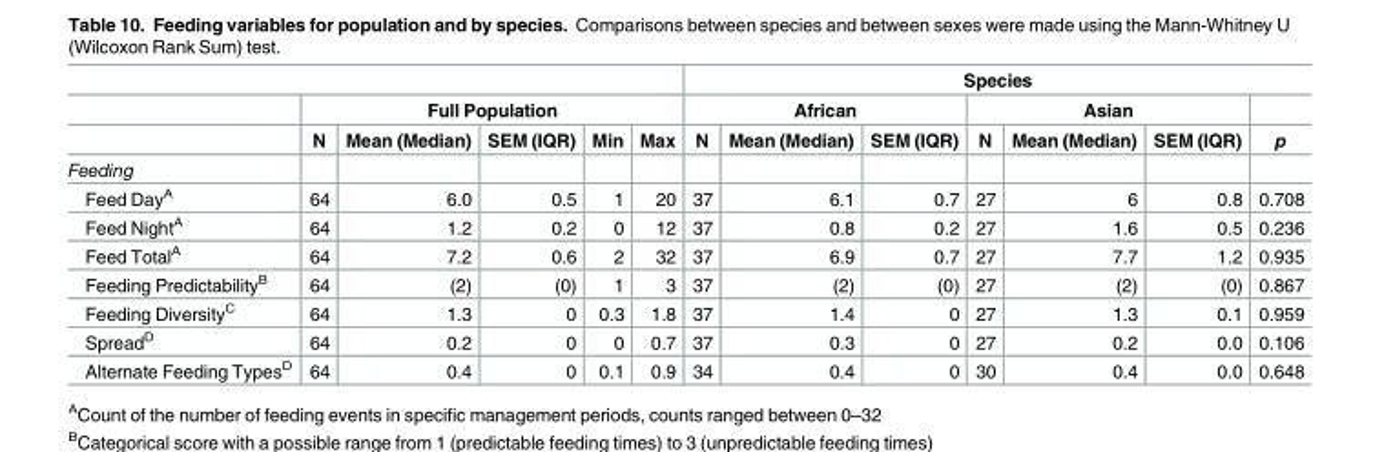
<table><thead><tr><td rowspan="3"></td><td></td><td></td><td></td><td></td><td></td><td colspan="7">Species</td></tr><tr><td colspan="5">Full Population</td><td colspan="3">African</td><td colspan="3">Asian</td><td rowspan="2">p</td></tr><tr><td>N</td><td>Mean (Median)</td><td>SEM (IQR)</td><td>Min</td><td>Max</td><td>N</td><td>Mean (Median)</td><td>SEM (IQR)</td><td>N</td><td>Mean (Median)</td><td>SEM (IQR)</td></tr></thead><tbody><tr><td colspan="13">Feeding</td></tr><tr><td>Feed Day<sup>A</sup></td><td>64</td><td>6.0</td><td>0.5</td><td>1</td><td>20</td><td>37</td><td>6.1</td><td>0.7</td><td>27</td><td>6</td><td>0.8</td><td>0.708</td></tr><tr><td>Feed Night<sup>A</sup></td><td>64</td><td>1.2</td><td>0.2</td><td>0</td><td>12</td><td>37</td><td>0.8</td><td>0.2</td><td>27</td><td>1.6</td><td>0.5</td><td>0.236</td></tr><tr><td>Feed Total<sup>A</sup></td><td>64</td><td>7.2</td><td>0.6</td><td>2</td><td>32</td><td>37</td><td>6.9</td><td>0.7</td><td>27</td><td>7.7</td><td>1.2</td><td>0.935</td></tr><tr><td>Feeding Predictability<sup>B</sup></td><td>64</td><td>(2)</td><td>(0)</td><td>1</td><td>3</td><td>37</td><td>(2)</td><td>(0)</td><td>27</td><td>(2)</td><td>(0)</td><td>0.867</td></tr><tr><td>Feeding Diversity<sup>C</sup></td><td>64</td><td>1.3</td><td>0</td><td>0.3</td><td>1.8</td><td>37</td><td>1.4</td><td>0</td><td>27</td><td>1.3</td><td>0.1</td><td>0.959</td></tr><tr><td>Spread<sup>D</sup></td><td>64</td><td>0.2</td><td>0</td><td>0</td><td>0.7</td><td>37</td><td>0.3</td><td>0</td><td>27</td><td>0.2</td><td>0.0</td><td>0.106</td></tr><tr><td>Alternate Feeding Types<sup>D</sup></td><td>64</td><td>0.4</td><td>0</td><td>0.1</td><td>0.9</td><td>34</td><td>0.4</td><td>0</td><td>30</td><td>0.4</td><td>0.0</td><td>0.648</td></tr></tbody></table>